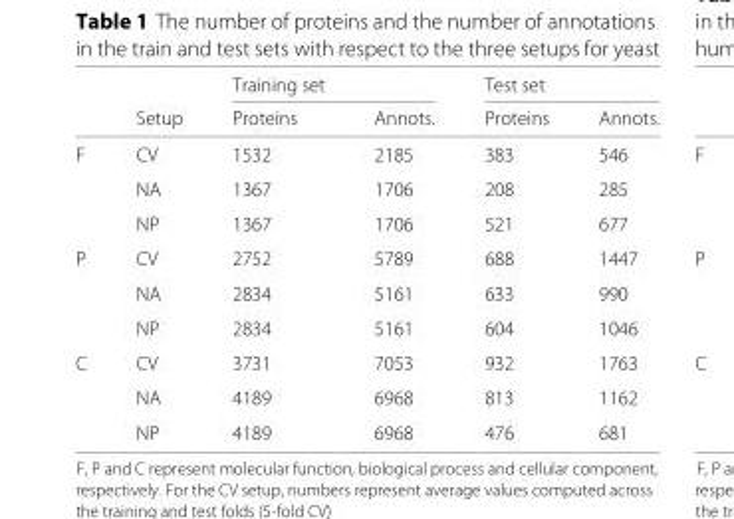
<table><thead><tr><td rowspan="2"></td><td rowspan="2">Setup</td><td rowspan="2">Training set Proteins</td><td rowspan="2">Annots.</td><td colspan="2">Test set</td></tr><tr><td>Proteins</td><td>Annots.</td></tr></thead><tbody><tr><td rowspan="3">F</td><td>CV</td><td>1532</td><td>2185</td><td>383</td><td>546</td></tr><tr><td>NA</td><td>1367</td><td>1706</td><td>208</td><td>285</td></tr><tr><td>NP</td><td>1367</td><td>1706</td><td>521</td><td>677</td></tr><tr><td rowspan="3">P</td><td>CV</td><td>2752</td><td>5789</td><td>688</td><td>1447</td></tr><tr><td>NA</td><td>2834</td><td>5161</td><td>633</td><td>990</td></tr><tr><td>NP</td><td>2834</td><td>5161</td><td>604</td><td>1046</td></tr><tr><td rowspan="3">C</td><td>CV</td><td>3731</td><td>7053</td><td>932</td><td>1763</td></tr><tr><td>NA</td><td>4189</td><td>6968</td><td>813</td><td>1162</td></tr><tr><td>NP</td><td>4189</td><td>6968</td><td>476</td><td>681</td></tr></tbody></table>